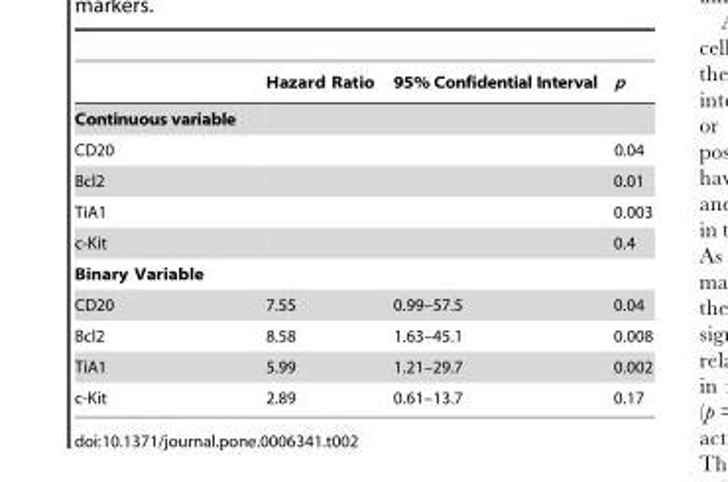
<table><thead><tr><td></td><td>Hazard Ratio</td><td>95% Confidential Interval</td><td>p</td></tr></thead><tbody><tr><td colspan="4">Continuous variable</td></tr><tr><td>CD20</td><td></td><td></td><td>0.04</td></tr><tr><td>Bcl2</td><td></td><td></td><td>0.01</td></tr><tr><td>TiA1</td><td></td><td></td><td>0.003</td></tr><tr><td>c-Kit</td><td></td><td></td><td>0.4</td></tr><tr><td colspan="4">Binary Variable</td></tr><tr><td>CD20</td><td>7.55</td><td>0.99–57.5</td><td>0.04</td></tr><tr><td>Bcl2</td><td>8.58</td><td>1.63–45.1</td><td>0.008</td></tr><tr><td>TiA1</td><td>5.99</td><td>1.21–29.7</td><td>0.002</td></tr><tr><td>c-Kit</td><td>2.89</td><td>0.61–13.7</td><td>0.17</td></tr></tbody></table>